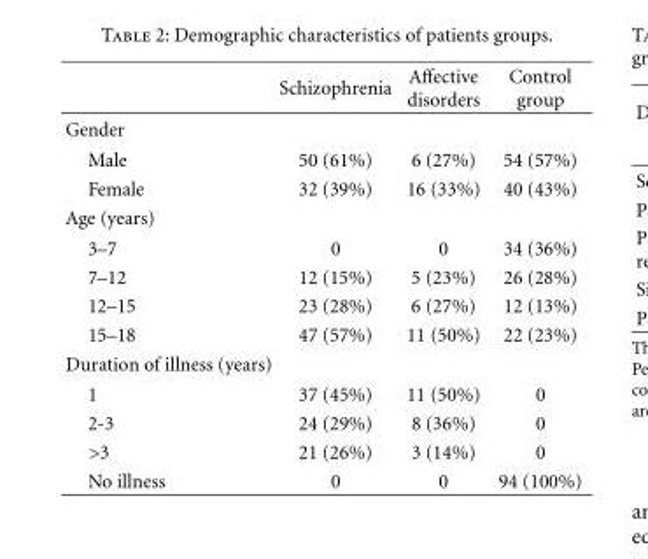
<table><thead><tr><td></td><td>Schizophrenia</td><td>Affective disorders</td><td>Control group</td></tr></thead><tbody><tr><td colspan="4">Gender</td></tr><tr><td>Male</td><td>50 (61%)</td><td>6 (27%)</td><td>54 (57%)</td></tr><tr><td>Female</td><td>32 (39%)</td><td>16 (33%)</td><td>40 (43%)</td></tr><tr><td colspan="4">Age (years)</td></tr><tr><td>3–7</td><td>0</td><td>0</td><td>34 (36%)</td></tr><tr><td>7–12</td><td>12 (15%)</td><td>5 (23%)</td><td>26 (28%)</td></tr><tr><td>12–15</td><td>23 (28%)</td><td>6 (27%)</td><td>12 (13%)</td></tr><tr><td>15–18</td><td>47 (57%)</td><td>11 (50%)</td><td>22 (23%)</td></tr><tr><td colspan="4">Duration of illness (years)</td></tr><tr><td>1</td><td>37 (45%)</td><td>11 (50%)</td><td>0</td></tr><tr><td>2-3</td><td>24 (29%)</td><td>8 (36%)</td><td>0</td></tr><tr><td>&gt;3</td><td>21 (26%)</td><td>3 (14%)</td><td>0</td></tr><tr><td>No illness</td><td>0</td><td>0</td><td>94 (100%)</td></tr></tbody></table>